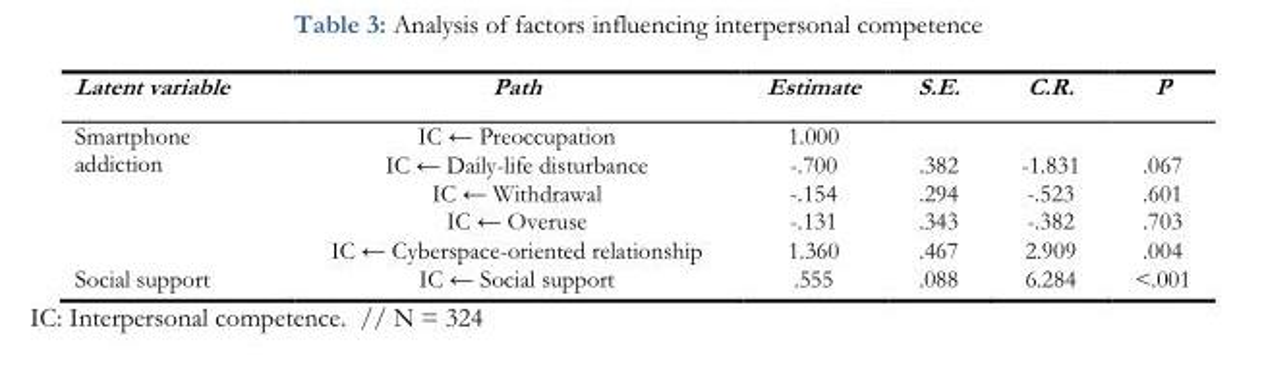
<table><thead><tr><td>Latent variable</td><td>Path</td><td>Estimate</td><td>S.E.</td><td>C.R.</td><td>P</td></tr></thead><tbody><tr><td rowspan="5">Smartphone addiction</td><td>IC ← Preoccupation</td><td>1.000</td><td></td><td></td><td></td></tr><tr><td>IC ← Daily-life disturbance</td><td>-.700</td><td>.382</td><td>-1.831</td><td>.067</td></tr><tr><td>IC ← Withdrawal</td><td>-.154</td><td>.294</td><td>-.523</td><td>.601</td></tr><tr><td>IC ← Overuse</td><td>-.131</td><td>.343</td><td>-.382</td><td>.703</td></tr><tr><td>IC ← Cyberspace-oriented relationship</td><td>1.360</td><td>.467</td><td>2.909</td><td>.004</td></tr><tr><td>Social support</td><td>IC ← Social support</td><td>.555</td><td>.088</td><td>6.284</td><td>&lt;.001</td></tr></tbody></table>